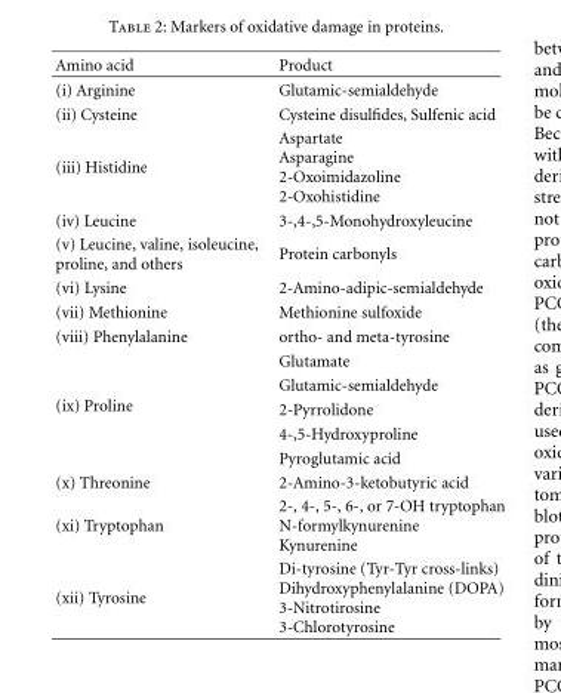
<table><thead><tr><td>Amino acid</td><td>Product</td></tr></thead><tbody><tr><td>(i) Arginine</td><td>Glutamic-semialdehyde</td></tr><tr><td>(ii) Cysteine</td><td>Cysteine disulfides, Sulfenic acid</td></tr><tr><td>(iii) Histidine</td><td>Aspartate Asparagine 2-Oxoimidazoline 2-Oxohistidine</td></tr><tr><td>(iv) Leucine</td><td>3-,4-,5-Monohydroxyleucine</td></tr><tr><td>(v) Leucine, valine, isoleucine, proline, and others</td><td>Protein carbonyls</td></tr><tr><td>(vi) Lysine</td><td>2-Amino-adipic-semialdehyde</td></tr><tr><td>(vii) Methionine</td><td>Methionine sulfoxide</td></tr><tr><td>(viii) Phenylalanine</td><td>ortho- and meta-tyrosine</td></tr><tr><td rowspan="5">(ix) Proline</td><td>Glutamate</td></tr><tr><td>Glutamic-semialdehyde</td></tr><tr><td>2-Pyrrolidone</td></tr><tr><td>4-,5-Hydroxyproline</td></tr><tr><td>Pyroglutamic acid</td></tr><tr><td>(x) Threonine</td><td>2-Amino-3-ketobutyric acid</td></tr><tr><td>(xi) Tryptophan</td><td>2-, 4-, 5-, 6-, or 7-OH tryptophan N-formylkynurenine Kynurenine</td></tr><tr><td>(xii) Tyrosine</td><td>Di-tyrosine (Tyr-Tyr cross-links) Dihydroxyphenylalanine (DOPA) 3-Nitrotirosine 3-Chlorotyrosine</td></tr></tbody></table>